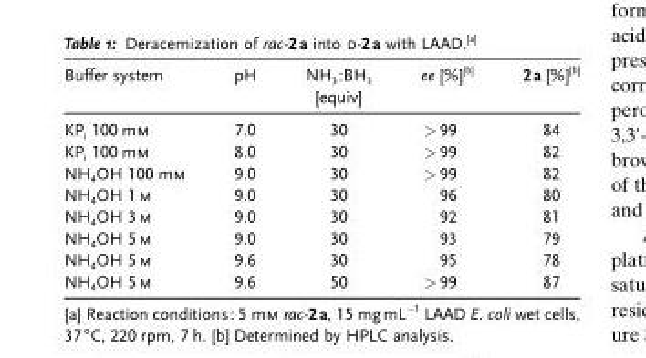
<table><thead><tr><td>Buffer system</td><td>pH</td><td>NH<sub>3</sub>:BH<sub>3</sub> [equiv]</td><td>ee [%]<sup>[b]</sup></td><td>2a [%]<sup>[b]</sup></td></tr></thead><tbody><tr><td>KP<sub>i</sub> 100 mm</td><td>7.0</td><td>30</td><td>&gt;99</td><td>84</td></tr><tr><td>KP<sub>i</sub> 100 mm</td><td>8.0</td><td>30</td><td>&gt;99</td><td>82</td></tr><tr><td>NH<sub>4</sub>OH 100 mm</td><td>9.0</td><td>30</td><td>&gt;99</td><td>82</td></tr><tr><td>NH<sub>4</sub>OH 1m</td><td>9.0</td><td>30</td><td>96</td><td>80</td></tr><tr><td>NH<sub>4</sub>OH 3m</td><td>9.0</td><td>30</td><td>92</td><td>81</td></tr><tr><td>NH<sub>4</sub>OH 5m</td><td>9.0</td><td>30</td><td>93</td><td>79</td></tr><tr><td>NH<sub>4</sub>OH 5m</td><td>9.6</td><td>30</td><td>95</td><td>78</td></tr><tr><td>NH<sub>4</sub>OH 5m</td><td>9.6</td><td>50</td><td>&gt;99</td><td>87</td></tr></tbody></table>